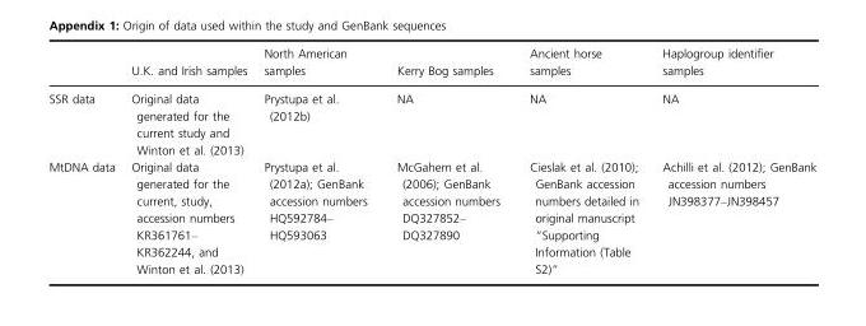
<table><thead><tr><td></td><td>U.K. and Irish samples</td><td>North American samples</td><td>Kerry Bog samples</td><td>Ancient horse samples</td><td>Haplogroup identifier samples</td></tr></thead><tbody><tr><td>SSR data</td><td>Original data generated for the current study and Winton et al. (2013)</td><td>Prystupa et al. (2012b)</td><td>NA</td><td>NA</td><td>NA</td></tr><tr><td>MtDNA data</td><td>Original data generated for the current, study, accession numbers KR361761– KR362244, and Winton et al. (2013)</td><td>Prystupa et al. (2012a); GenBank accession numbers HQ592784– HQ593063</td><td>McGahern et al. (2006); GenBank accession numbers DQ327852– DQ327890</td><td>Cieslak et al. (2010); GenBank accession numbers detailed in original manuscript “Supporting Information (Table S2)”</td><td>Achilli et al. (2012); GenBank accession numbers JN398377–JN398457</td></tr></tbody></table>